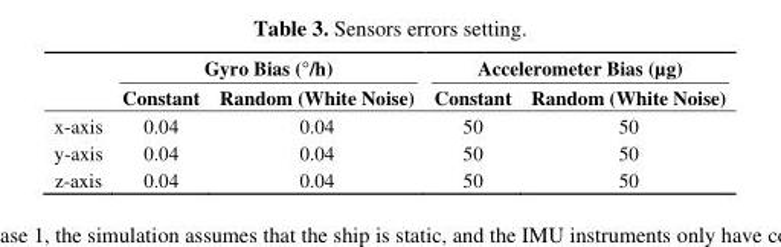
<table><thead><tr><td rowspan="2"></td><td colspan="2">Gyro Bias (°/h)</td><td colspan="2">Accelerometer Bias (µg)</td></tr><tr><td>Constant</td><td>Random (White Noise)</td><td>Constant</td><td>Random (White Noise)</td></tr></thead><tbody><tr><td>x-axis</td><td>0.04</td><td>0.04</td><td>50</td><td>50</td></tr><tr><td>y-axis</td><td>0.04</td><td>0.04</td><td>50</td><td>50</td></tr><tr><td>z-axis</td><td>0.04</td><td>0.04</td><td>50</td><td>50</td></tr></tbody></table>